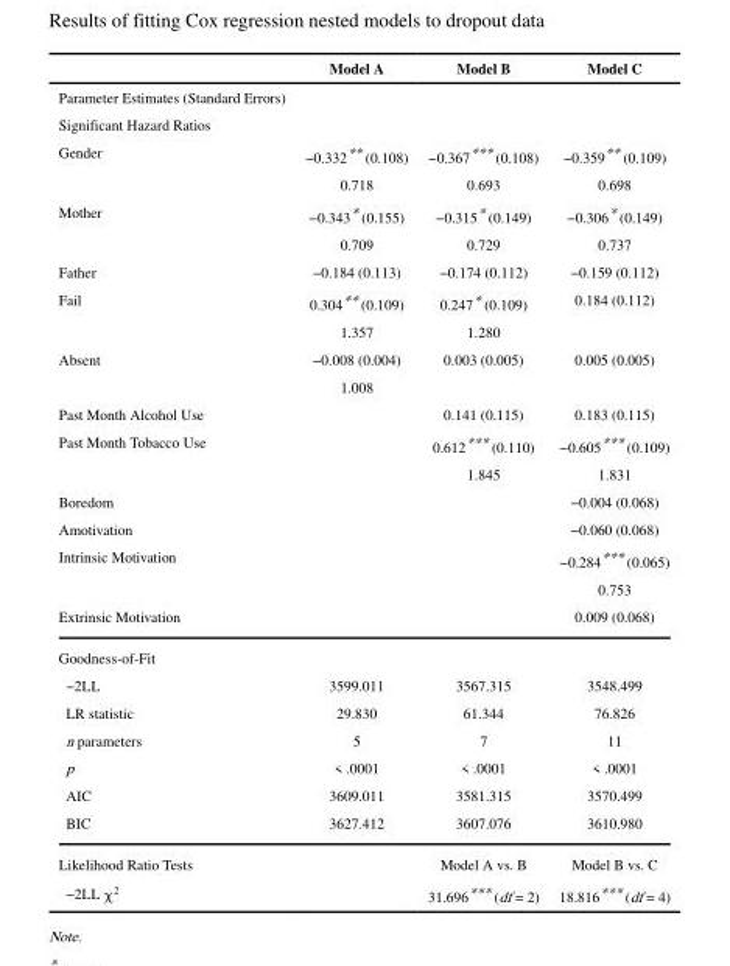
<table><thead><tr><td></td><td>Model A</td><td>Model B</td><td>Model C</td></tr></thead><tbody><tr><td colspan="4">Parameter Estimates (Standard Errors)</td></tr><tr><td colspan="4">Significant Hazard Ratios</td></tr><tr><td rowspan="2">Gender</td><td>−0.332** (0.108)</td><td>−0.367*** (0.108)</td><td>−0.359** (0.109)</td></tr><tr><td>0.718</td><td>0.693</td><td>0.698</td></tr><tr><td rowspan="2">Mother</td><td>−0.343* (0.155)</td><td>−0.315* (0.149)</td><td>−0.306* (0.149)</td></tr><tr><td>0.709</td><td>0.729</td><td>0.737</td></tr><tr><td>Father</td><td>−0.184 (0.113)</td><td>−0.174 (0.112)</td><td>−0.159 (0.112)</td></tr><tr><td rowspan="2">Fail</td><td>0.304** (0.109)</td><td>0.247* (0.109)</td><td>0.184 (0.112)</td></tr><tr><td>1.357</td><td>1.280</td><td></td></tr><tr><td rowspan="2">Absent</td><td>−0.008 (0.004)</td><td>0.003 (0.005)</td><td>0.005 (0.005)</td></tr><tr><td>1.008</td><td></td><td></td></tr><tr><td>Past Month Alcohol Use</td><td></td><td>0.141 (0.115)</td><td>0.183 (0.115)</td></tr><tr><td rowspan="2">Past Month Tobacco Use</td><td></td><td>0.612*** (0.110)</td><td>−0.605*** (0.109)</td></tr><tr><td></td><td>1.845</td><td>1.831</td></tr><tr><td>Boredom</td><td></td><td></td><td>−0.004 (0.068)</td></tr><tr><td>Amotivation</td><td></td><td></td><td>−0.060 (0.068)</td></tr><tr><td rowspan="2">Intrinsic Motivation</td><td></td><td></td><td>−0.284*** (0.065)</td></tr><tr><td></td><td></td><td>0.753</td></tr><tr><td>Extrinsic Motivation</td><td></td><td></td><td>0.009 (0.068)</td></tr><tr><td colspan="4">Goodness-of-Fit</td></tr><tr><td>−2LL</td><td>3599.011</td><td>3567.315</td><td>3548.499</td></tr><tr><td>LR statistic</td><td>29.830</td><td>61.344</td><td>76.826</td></tr><tr><td>n parameters</td><td>5</td><td>7</td><td>11</td></tr><tr><td>p</td><td>&lt; .0001</td><td>&lt; .0001</td><td>&lt; .0001</td></tr><tr><td>AIC</td><td>3609.011</td><td>3581.315</td><td>3570.499</td></tr><tr><td>BIC</td><td>3627.412</td><td>3607.076</td><td>3610.980</td></tr><tr><td>Likelihood Ratio Tests</td><td></td><td>Model A vs. B</td><td>Model B vs. C</td></tr><tr><td>−2LL χ<sup>2</sup></td><td></td><td>31.696*** (df = 2)</td><td>18.816*** (df = 4)</td></tr></tbody></table>